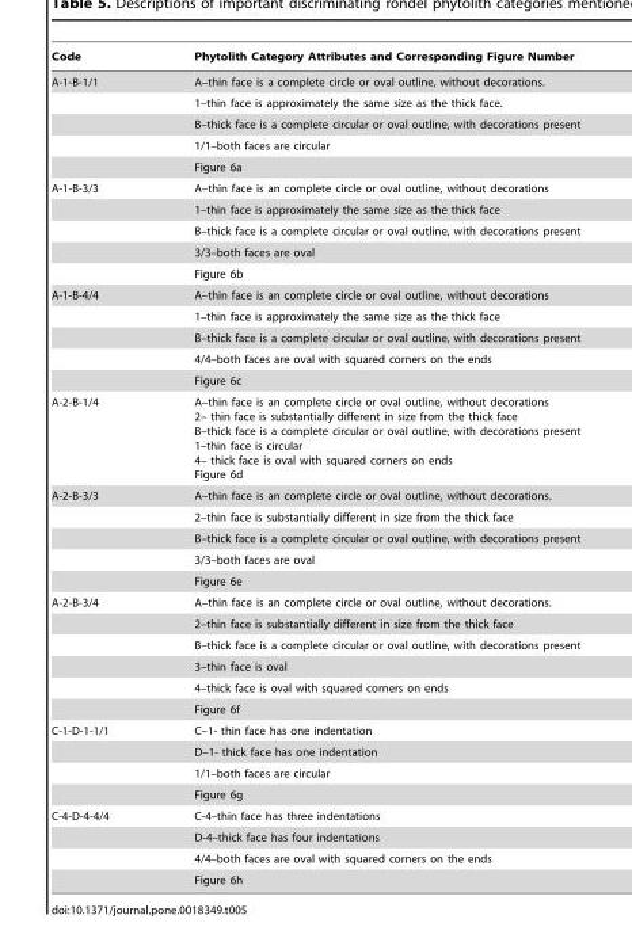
<table><thead><tr><td>Code</td><td>Phytolith Category Attributes and Corresponding Figure Number</td></tr></thead><tbody><tr><td rowspan="5">A-1-B-1/1</td><td>A–thin face is a complete circle or oval outline, without decorations.</td></tr><tr><td>1–thin face is approximately the same size as the thick face.</td></tr><tr><td>B–thick face is a complete circular or oval outline, with decorations present</td></tr><tr><td>1/1–both faces are circular</td></tr><tr><td>Figure 6a</td></tr><tr><td rowspan="5">A-1-B-3/3</td><td>A–thin face is an complete circle or oval outline, without decorations</td></tr><tr><td>1–thin face is approximately the same size as the thick face</td></tr><tr><td>B–thick face is a complete circular or oval outline, with decorations present</td></tr><tr><td>3/3–both faces are oval</td></tr><tr><td>Figure 6b</td></tr><tr><td rowspan="5">A-1-B-4/4</td><td>A–thin face is an complete circle or oval outline, without decorations</td></tr><tr><td>1–thin face is approximately the same size as the thick face</td></tr><tr><td>B–thick face is a complete circular or oval outline, with decorations present</td></tr><tr><td>4/4–both faces are oval with squared corners on the ends</td></tr><tr><td>Figure 6c</td></tr><tr><td>A-2-B-1/4</td><td>A–thin face is an complete circle or oval outline, without decorations 2– thin face is substantially different in size from the thick face B–thick face is a complete circular or oval outline, with decorations present 1–thin face is circular 4– thick face is oval with squared corners on ends Figure 6d</td></tr><tr><td rowspan="5">A-2-B-3/3</td><td>A–thin face is an complete circle or oval outline, without decorations.</td></tr><tr><td>2–thin face is substantially different in size from the thick face</td></tr><tr><td>B–thick face is a complete circular or oval outline, with decorations present</td></tr><tr><td>3/3–both faces are oval</td></tr><tr><td>Figure 6e</td></tr><tr><td rowspan="6">A-2-B-3/4</td><td>A–thin face is an complete circle or oval outline, without decorations.</td></tr><tr><td>2–thin face is substantially different in size from the thick face</td></tr><tr><td>B–thick face is a complete circular or oval outline, with decorations present</td></tr><tr><td>3–thin face is oval</td></tr><tr><td>4–thick face is oval with squared corners on ends</td></tr><tr><td>Figure 6f</td></tr><tr><td rowspan="4">C-1-D-1-1/1</td><td>C–1- thin face has one indentation</td></tr><tr><td>D–1- thick face has one indentation</td></tr><tr><td>1/1–both faces are circular</td></tr><tr><td>Figure 6g</td></tr><tr><td rowspan="4">C-4-D-4-4/4</td><td>C-4–thin face has three indentations</td></tr><tr><td>D-4–thick face has four indentations</td></tr><tr><td>4/4–both faces are oval with squared corners on the ends</td></tr><tr><td>Figure 6h</td></tr></tbody></table>